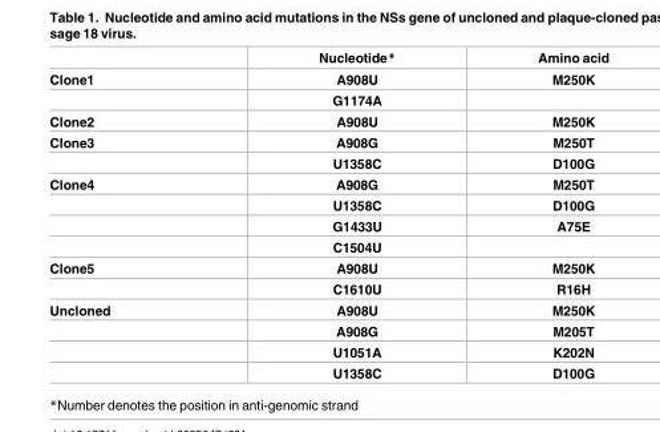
<table><thead><tr><td></td><td>Nucleotide*</td><td>Amino acid</td></tr></thead><tbody><tr><td rowspan="2">Clone1</td><td>A908U</td><td>M250K</td></tr><tr><td>G1174A</td><td></td></tr><tr><td>Clone2</td><td>A908U</td><td>M250K</td></tr><tr><td rowspan="2">Clone3</td><td>A908G</td><td>M250T</td></tr><tr><td>U1358C</td><td>D100G</td></tr><tr><td rowspan="4">Clone4</td><td>A908G</td><td>M250T</td></tr><tr><td>U1358C</td><td>D100G</td></tr><tr><td>G1433U</td><td>A75E</td></tr><tr><td>C1504U</td><td></td></tr><tr><td rowspan="2">Clone5</td><td>A908U</td><td>M250K</td></tr><tr><td>C1610U</td><td>R16H</td></tr><tr><td rowspan="4">Uncloned</td><td>A908U</td><td>M250K</td></tr><tr><td>A908G</td><td>M205T</td></tr><tr><td>U1051A</td><td>K202N</td></tr><tr><td>U1358C</td><td>D100G</td></tr></tbody></table>